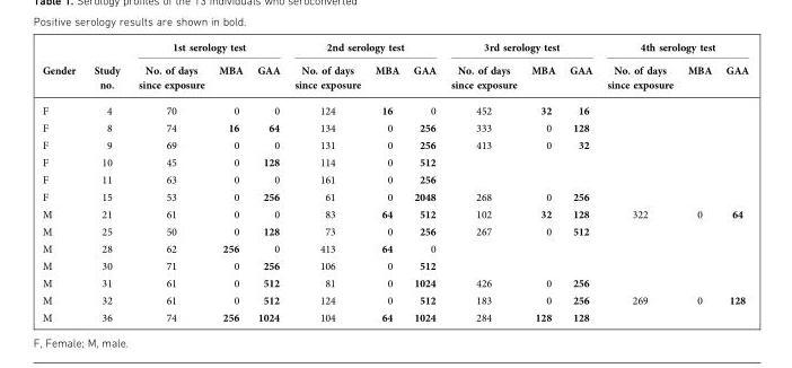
<table><thead><tr><td rowspan="2">Gender</td><td rowspan="2">Study no.</td><td colspan="3">1st serology test</td><td colspan="3">2nd serology test</td><td colspan="3">3rd serology test</td><td colspan="3">4th serology test</td></tr><tr><td>No. of days since exposure</td><td>MBA</td><td>GAA</td><td>No. of days since exposure</td><td>MBA</td><td>GAA</td><td>No. of days since exposure</td><td>MBA</td><td>GAA</td><td>No. of days since exposure</td><td>MBA</td><td>GAA</td></tr></thead><tbody><tr><td>F</td><td>4</td><td>70</td><td>0</td><td>0</td><td>124</td><td>16</td><td>0</td><td>452</td><td>32</td><td>16</td><td></td><td></td><td></td></tr><tr><td>F</td><td>8</td><td>74</td><td>16</td><td>64</td><td>134</td><td>0</td><td>256</td><td>333</td><td>0</td><td>128</td><td></td><td></td><td></td></tr><tr><td>F</td><td>9</td><td>69</td><td>0</td><td>0</td><td>131</td><td>0</td><td>256</td><td>413</td><td>0</td><td>32</td><td></td><td></td><td></td></tr><tr><td>F</td><td>10</td><td>45</td><td>0</td><td>128</td><td>114</td><td>0</td><td>512</td><td></td><td></td><td></td><td></td><td></td><td></td></tr><tr><td>F</td><td>11</td><td>63</td><td>0</td><td>0</td><td>161</td><td>0</td><td>256</td><td></td><td></td><td></td><td></td><td></td><td></td></tr><tr><td>F</td><td>15</td><td>53</td><td>0</td><td>256</td><td>61</td><td>0</td><td>2048</td><td>268</td><td>0</td><td>256</td><td></td><td></td><td></td></tr><tr><td>M</td><td>21</td><td>61</td><td>0</td><td>0</td><td>83</td><td>64</td><td>512</td><td>102</td><td>32</td><td>128</td><td>322</td><td>0</td><td>64</td></tr><tr><td>M</td><td>25</td><td>50</td><td>0</td><td>128</td><td>73</td><td>0</td><td>256</td><td>267</td><td>0</td><td>512</td><td></td><td></td><td></td></tr><tr><td>M</td><td>28</td><td>62</td><td>256</td><td>0</td><td>413</td><td>64</td><td>0</td><td></td><td></td><td></td><td></td><td></td><td></td></tr><tr><td>M</td><td>30</td><td>71</td><td>0</td><td>256</td><td>106</td><td>0</td><td>512</td><td></td><td></td><td></td><td></td><td></td><td></td></tr><tr><td>M</td><td>31</td><td>61</td><td>0</td><td>512</td><td>81</td><td>0</td><td>1024</td><td>426</td><td>0</td><td>256</td><td></td><td></td><td></td></tr><tr><td>M</td><td>32</td><td>61</td><td>0</td><td>512</td><td>124</td><td>0</td><td>512</td><td>183</td><td>0</td><td>256</td><td>269</td><td>0</td><td>128</td></tr><tr><td>M</td><td>36</td><td>74</td><td>256</td><td>1024</td><td>104</td><td>64</td><td>1024</td><td>284</td><td>128</td><td>128</td><td></td><td></td><td></td></tr></tbody></table>